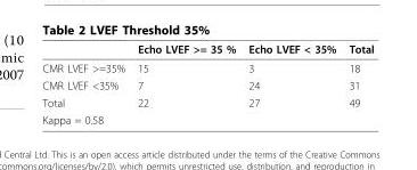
<table><thead><tr><td></td><td>Echo LVEF &gt;= 35 %</td><td>Echo LVEF &lt; 35%</td><td>Total</td></tr></thead><tbody><tr><td>CMR LVEF &gt;=35%</td><td>15</td><td>3</td><td>18</td></tr><tr><td>CMR LVEF &lt;35%</td><td>7</td><td>24</td><td>31</td></tr><tr><td>Total</td><td>22</td><td>27</td><td>49</td></tr><tr><td>Kappa = 0.58</td><td colspan="3"></td></tr></tbody></table>